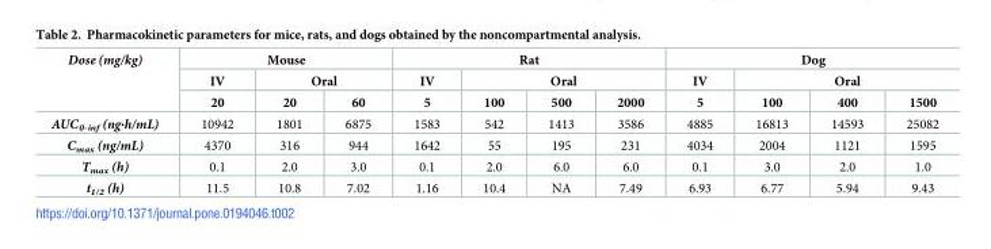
<table><thead><tr><td rowspan="3">Dose (mg/kg)</td><td colspan="3">Mouse</td><td colspan="4">Rat</td><td colspan="4">Dog</td></tr><tr><td rowspan="2">IV 20</td><td colspan="2">Oral</td><td rowspan="2">IV 5</td><td colspan="3">Oral</td><td rowspan="2">IV 5</td><td colspan="3">Oral</td></tr><tr><td>20</td><td>60</td><td>100</td><td>500</td><td>2000</td><td>100</td><td>400</td><td>1500</td></tr></thead><tbody><tr><td>AUC<sub>0-inf</sub> (ng·h/mL)</td><td>10942</td><td>1801</td><td>6875</td><td>1583</td><td>542</td><td>1413</td><td>3586</td><td>4885</td><td>16813</td><td>14593</td><td>25082</td></tr><tr><td>C<sub>max</sub> (ng/mL)</td><td>4370</td><td>316</td><td>944</td><td>1642</td><td>55</td><td>195</td><td>231</td><td>4034</td><td>2004</td><td>1121</td><td>1595</td></tr><tr><td>T<sub>max</sub> (h)</td><td>0.1</td><td>2.0</td><td>3.0</td><td>0.1</td><td>2.0</td><td>6.0</td><td>6.0</td><td>0.1</td><td>3.0</td><td>2.0</td><td>1.0</td></tr><tr><td>t<sub>1/2</sub> (h)</td><td>11.5</td><td>10.8</td><td>7.02</td><td>1.16</td><td>10.4</td><td>NA</td><td>7.49</td><td>6.93</td><td>6.77</td><td>5.94</td><td>9.43</td></tr></tbody></table>